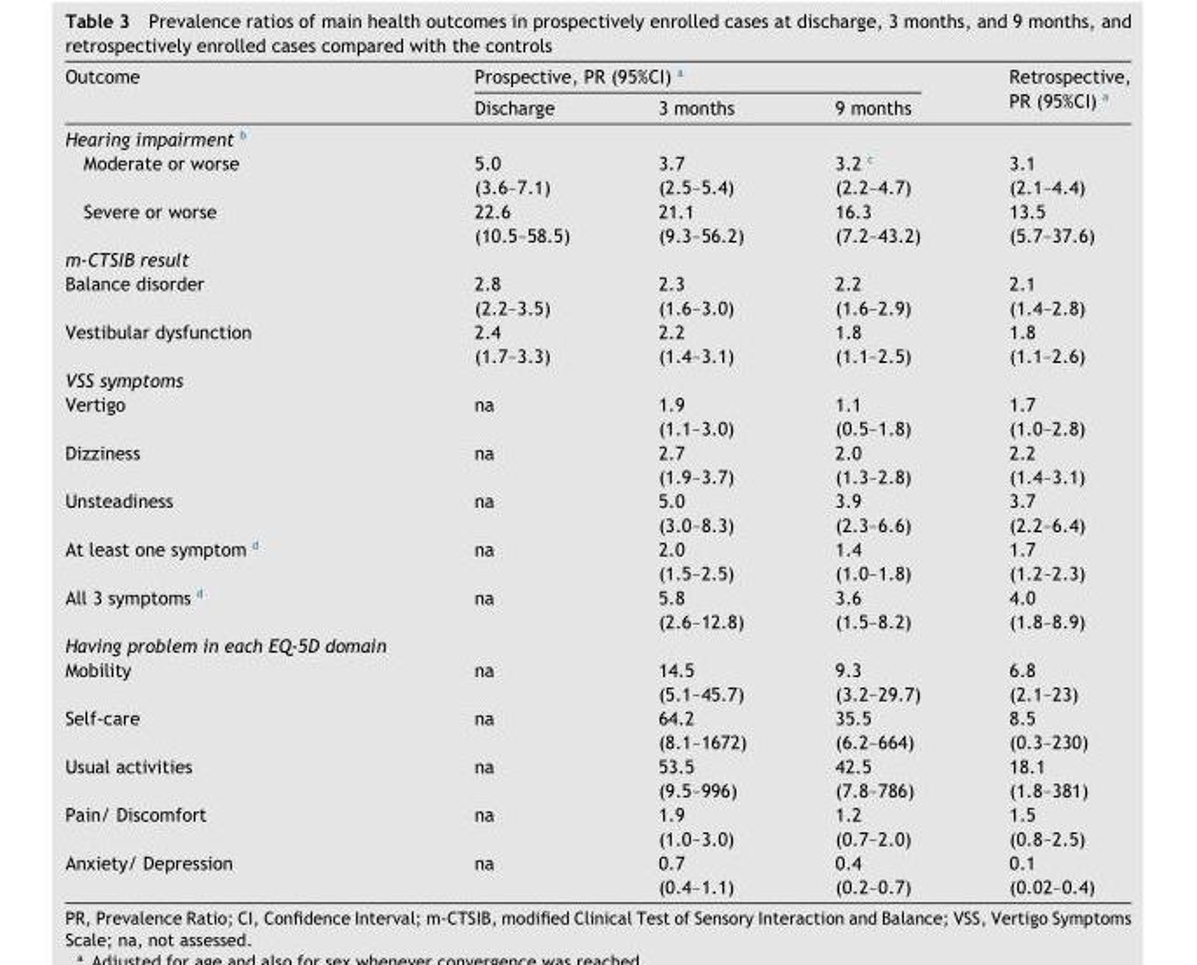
<table><thead><tr><td rowspan="2">Outcome</td><td colspan="3">Prospective, PR (95%CI) a</td><td rowspan="2">Retrospective, PR (95%CI) a</td></tr><tr><td>Discharge</td><td>3 months</td><td>9 months</td></tr></thead><tbody><tr><td colspan="5">Hearing impairment <sup>b</sup></td></tr><tr><td>Moderate or worse</td><td>5.0 (3.6–7.1)</td><td>3.7 (2.5–5.4)</td><td>3.2 c (2.2–4.7)</td><td>3.1 (2.1–4.4)</td></tr><tr><td>Severe or worse</td><td>22.6 (10.5–58.5)</td><td>21.1 (9.3–56.2)</td><td>16.3 (7.2–43.2)</td><td>13.5 (5.7–37.6)</td></tr><tr><td colspan="5">m-CTSIB result</td></tr><tr><td>Balance disorder</td><td>2.8 (2.2–3.5)</td><td>2.3 (1.6–3.0)</td><td>2.2 (1.6–2.9)</td><td>2.1 (1.4–2.8)</td></tr><tr><td>Vestibular dysfunction</td><td>2.4 (1.7–3.3)</td><td>2.2 (1.4–3.1)</td><td>1.8 (1.1–2.5)</td><td>1.8 (1.1–2.6)</td></tr><tr><td colspan="5">VSS symptoms</td></tr><tr><td>Vertigo</td><td>na</td><td>1.9 (1.1–3.0)</td><td>1.1 (0.5–1.8)</td><td>1.7 (1.0–2.8)</td></tr><tr><td>Dizziness</td><td>na</td><td>2.7 (1.9–3.7)</td><td>2.0 (1.3–2.8)</td><td>2.2 (1.4–3.1)</td></tr><tr><td>Unsteadiness</td><td>na</td><td>5.0 (3.0–8.3)</td><td>3.9 (2.3–6.6)</td><td>3.7 (2.2–6.4)</td></tr><tr><td>At least one symptom d</td><td>na</td><td>2.0 (1.5–2.5)</td><td>1.4 (1.0–1.8)</td><td>1.7 (1.2–2.3)</td></tr><tr><td>All 3 symptoms d</td><td>na</td><td>5.8 (2.6–12.8)</td><td>3.6 (1.5–8.2)</td><td>4.0 (1.8–8.9)</td></tr><tr><td colspan="5">Having problem in each EQ-5D domain</td></tr><tr><td>Mobility</td><td>na</td><td>14.5 (5.1–45.7)</td><td>9.3 (3.2–29.7)</td><td>6.8 (2.1–23)</td></tr><tr><td>Self-care</td><td>na</td><td>64.2 (8.1–1672)</td><td>35.5 (6.2–664)</td><td>8.5 (0.3–230)</td></tr><tr><td>Usual activities</td><td>na</td><td>53.5 (9.5–996)</td><td>42.5 (7.8–786)</td><td>18.1 (1.8–381)</td></tr><tr><td>Pain/ Discomfort</td><td>na</td><td>1.9 (1.0–3.0)</td><td>1.2 (0.7–2.0)</td><td>1.5 (0.8–2.5)</td></tr><tr><td>Anxiety/ Depression</td><td>na</td><td>0.7 (0.4–1.1)</td><td>0.4 (0.2–0.7)</td><td>0.1 (0.02–0.4)</td></tr></tbody></table>